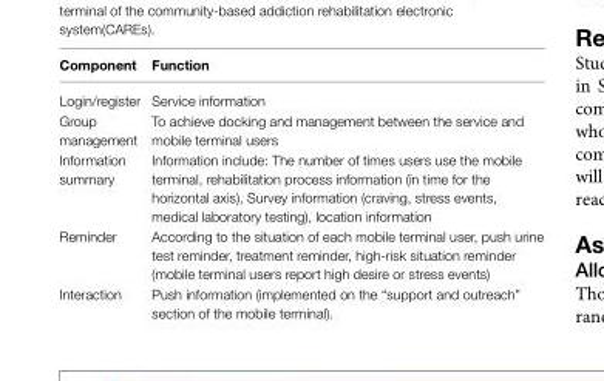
<table><thead><tr><td>Component</td><td>Function</td></tr></thead><tbody><tr><td>Login/register</td><td>Service information</td></tr><tr><td>Group management</td><td>To achieve docking and management between the service and mobile terminal users</td></tr><tr><td>Information summary</td><td>Information include: The number of times users use the mobile terminal, rehabilitation process information (in time for the horizontal axis), Survey information (craving, stress events, medical laboratory testing), location information</td></tr><tr><td>Reminder</td><td>According to the situation of each mobile terminal user, push urine test reminder, treatment reminder, high-risk situation reminder (mobile terminal users report high desire or stress events)</td></tr><tr><td>Interaction</td><td>Push information (implemented on the “support and outreach” section of the mobile terminal).</td></tr></tbody></table>